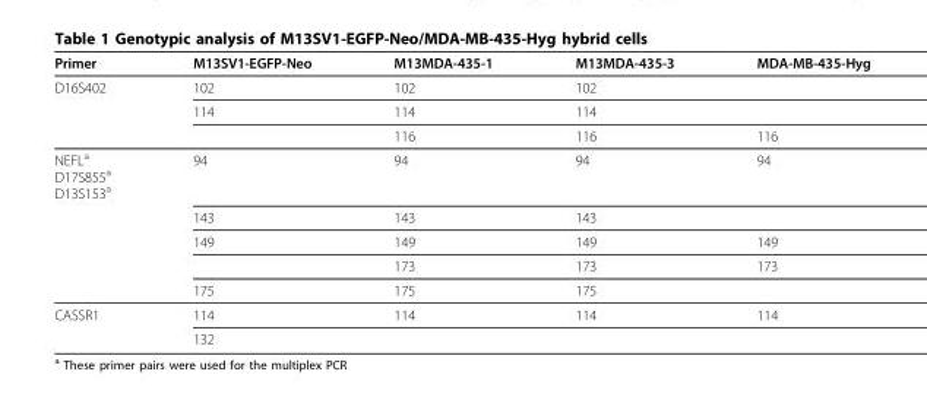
<table><thead><tr><td>Primer</td><td>M13SV1-EGFP-Neo</td><td>M13MDA-435-1</td><td>M13MDA-435-3</td><td>MDA-MB-435-Hyg</td></tr></thead><tbody><tr><td rowspan="3">D16S402</td><td>102</td><td>102</td><td>102</td><td></td></tr><tr><td>114</td><td>114</td><td>114</td><td></td></tr><tr><td></td><td>116</td><td>116</td><td>116</td></tr><tr><td rowspan="5">NEFL<sup>a</sup> D17S855<sup>a</sup> D13S153<sup>a</sup></td><td>94</td><td>94</td><td>94</td><td>94</td></tr><tr><td>143</td><td>143</td><td>143</td><td></td></tr><tr><td>149</td><td>149</td><td>149</td><td>149</td></tr><tr><td></td><td>173</td><td>173</td><td>173</td></tr><tr><td>175</td><td>175</td><td>175</td><td></td></tr><tr><td rowspan="2">CASSR1</td><td>114</td><td>114</td><td>114</td><td>114</td></tr><tr><td>132</td><td></td><td></td><td></td></tr></tbody></table>